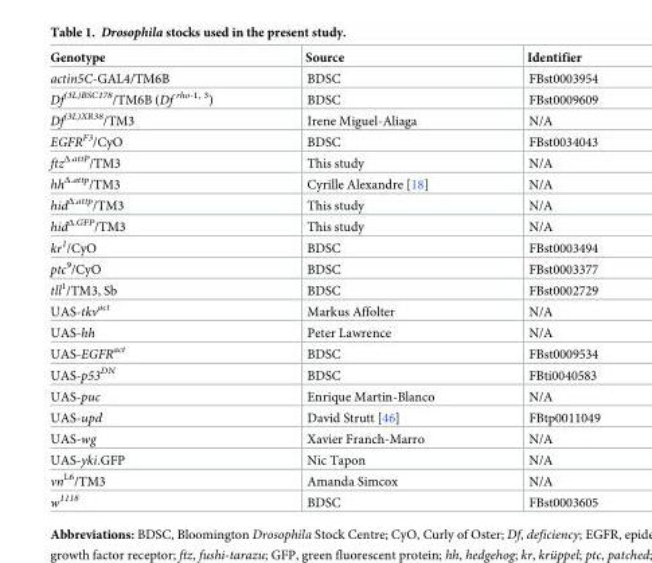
<table><thead><tr><td>Genotype</td><td>Source</td><td>Identifier</td></tr></thead><tbody><tr><td>actin5C-GAL4/TM6B</td><td>BDSC</td><td>FBst0003954</td></tr><tr><td>Df<sup>(3L)BSC178</sup>/TM6B (Df <sup>rho-1, 3</sup>)</td><td>BDSC</td><td>FBst0009609</td></tr><tr><td>Df<sup>(3L)XR38</sup>/TM3</td><td>Irene Miguel-Aliaga</td><td>N/A</td></tr><tr><td>EGFR<sup>F3</sup>/CyO</td><td>BDSC</td><td>FBst0034043</td></tr><tr><td>ftz<sup>Δ.attP</sup>/TM3</td><td>This study</td><td>N/A</td></tr><tr><td>hh<sup>Δ.attp</sup>/TM3</td><td>Cyrille Alexandre [18]</td><td>N/A</td></tr><tr><td>hid<sup>Δ.attp</sup>/TM3</td><td>This study</td><td>N/A</td></tr><tr><td>hid<sup>Δ.GFP</sup>/TM3</td><td>This study</td><td>N/A</td></tr><tr><td>kr<sup>1</sup>/CyO</td><td>BDSC</td><td>FBst0003494</td></tr><tr><td>ptc<sup>9</sup>/CyO</td><td>BDSC</td><td>FBst0003377</td></tr><tr><td>tll<sup>1</sup>/TM3, Sb</td><td>BDSC</td><td>FBst0002729</td></tr><tr><td>UAS-tkv<sup>act</sup></td><td>Markus Affolter</td><td>N/A</td></tr><tr><td>UAS-hh</td><td>Peter Lawrence</td><td>N/A</td></tr><tr><td>UAS-EGFR<sup>act</sup></td><td>BDSC</td><td>FBst0009534</td></tr><tr><td>UAS-p53<sup>DN</sup></td><td>BDSC</td><td>FBti0040583</td></tr><tr><td>UAS-puc</td><td>Enrique Martin-Blanco</td><td>N/A</td></tr><tr><td>UAS-upd</td><td>David Strutt [46]</td><td>FBtp0011049</td></tr><tr><td>UAS-wg</td><td>Xavier Franch-Marro</td><td>N/A</td></tr><tr><td>UAS-yki.GFP</td><td>Nic Tapon</td><td>N/A</td></tr><tr><td>vn<sup>L6</sup>/TM3</td><td>Amanda Simcox</td><td>N/A</td></tr><tr><td>w<sup>1118</sup></td><td>BDSC</td><td>FBst0003605</td></tr></tbody></table>